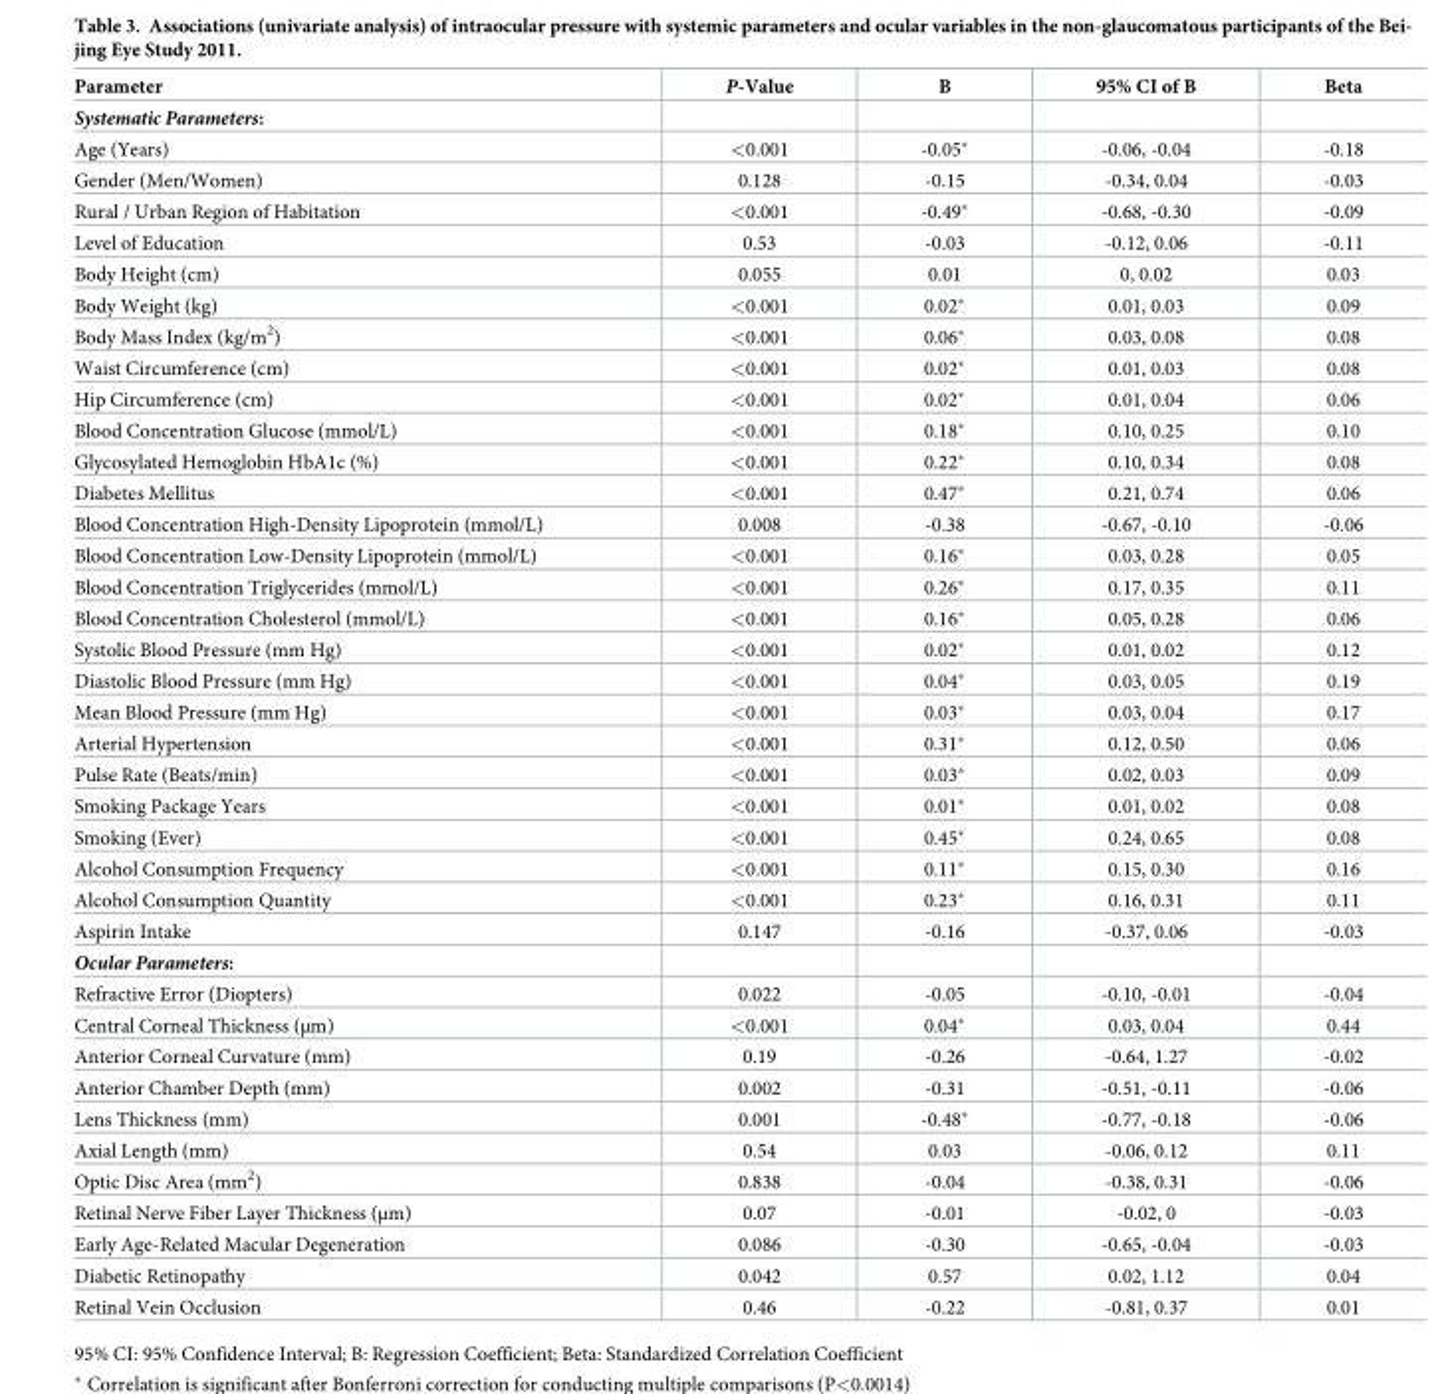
<table><thead><tr><td>Parameter</td><td>P-Value</td><td>B</td><td>95% CI of B</td><td>Beta</td></tr></thead><tbody><tr><td colspan="5">Systematic Parameters:</td></tr><tr><td>Age (Years)</td><td>&lt;0.001</td><td>-0.05*</td><td>-0.06, -0.04</td><td>-0.18</td></tr><tr><td>Gender (Men/Women)</td><td>0.128</td><td>-0.15</td><td>-0.34, 0.04</td><td>-0.03</td></tr><tr><td>Rural / Urban Region of Habitation</td><td>&lt;0.001</td><td>-0.49*</td><td>-0.68, -0.30</td><td>-0.09</td></tr><tr><td>Level of Education</td><td>0.53</td><td>-0.03</td><td>-0.12, 0.06</td><td>-0.11</td></tr><tr><td>Body Height (cm)</td><td>0.055</td><td>0.01</td><td>0, 0.02</td><td>0.03</td></tr><tr><td>Body Weight (kg)</td><td>&lt;0.001</td><td>0.02*</td><td>0.01, 0.03</td><td>0.09</td></tr><tr><td>Body Mass Index (kg/m<sup>2</sup>)</td><td>&lt;0.001</td><td>0.06*</td><td>0.03, 0.08</td><td>0.08</td></tr><tr><td>Waist Circumference (cm)</td><td>&lt;0.001</td><td>0.02*</td><td>0.01, 0.03</td><td>0.08</td></tr><tr><td>Hip Circumference (cm)</td><td>&lt;0.001</td><td>0.02*</td><td>0.01, 0.04</td><td>0.06</td></tr><tr><td>Blood Concentration Glucose (mmol/L)</td><td>&lt;0.001</td><td>0.18*</td><td>0.10, 0.25</td><td>0.10</td></tr><tr><td>Glycosylated Hemoglobin HbA1c (%)</td><td>&lt;0.001</td><td>0.22*</td><td>0.10, 0.34</td><td>0.08</td></tr><tr><td>Diabetes Mellitus</td><td>&lt;0.001</td><td>0.47*</td><td>0.21, 0.74</td><td>0.06</td></tr><tr><td>Blood Concentration High-Density Lipoprotein (mmol/L)</td><td>0.008</td><td>-0.38</td><td>-0.67, -0.10</td><td>-0.06</td></tr><tr><td>Blood Concentration Low-Density Lipoprotein (mmol/L)</td><td>&lt;0.001</td><td>0.16*</td><td>0.03, 0.28</td><td>0.05</td></tr><tr><td>Blood Concentration Triglycerides (mmol/L)</td><td>&lt;0.001</td><td>0.26*</td><td>0.17, 0.35</td><td>0.11</td></tr><tr><td>Blood Concentration Cholesterol (mmol/L)</td><td>&lt;0.001</td><td>0.16*</td><td>0.05, 0.28</td><td>0.06</td></tr><tr><td>Systolic Blood Pressure (mm Hg)</td><td>&lt;0.001</td><td>0.02*</td><td>0.01, 0.02</td><td>0.12</td></tr><tr><td>Diastolic Blood Pressure (mm Hg)</td><td>&lt;0.001</td><td>0.04*</td><td>0.03, 0.05</td><td>0.19</td></tr><tr><td>Mean Blood Pressure (mm Hg)</td><td>&lt;0.001</td><td>0.03*</td><td>0.03, 0.04</td><td>0.17</td></tr><tr><td>Arterial Hypertension</td><td>&lt;0.001</td><td>0.31*</td><td>0.12, 0.50</td><td>0.06</td></tr><tr><td>Pulse Rate (Beats/min)</td><td>&lt;0.001</td><td>0.03*</td><td>0.02, 0.03</td><td>0.09</td></tr><tr><td>Smoking Package Years</td><td>&lt;0.001</td><td>0.01*</td><td>0.01, 0.02</td><td>0.08</td></tr><tr><td>Smoking (Ever)</td><td>&lt;0.001</td><td>0.45*</td><td>0.24, 0.65</td><td>0.08</td></tr><tr><td>Alcohol Consumption Frequency</td><td>&lt;0.001</td><td>0.11*</td><td>0.15, 0.30</td><td>0.16</td></tr><tr><td>Alcohol Consumption Quantity</td><td>&lt;0.001</td><td>0.23*</td><td>0.16, 0.31</td><td>0.11</td></tr><tr><td>Aspirin Intake</td><td>0.147</td><td>-0.16</td><td>-0.37, 0.06</td><td>-0.03</td></tr><tr><td colspan="5">Ocular Parameters:</td></tr><tr><td>Refractive Error (Diopters)</td><td>0.022</td><td>-0.05</td><td>-0.10, -0.01</td><td>-0.04</td></tr><tr><td>Central Corneal Thickness (μm)</td><td>&lt;0.001</td><td>0.04*</td><td>0.03, 0.04</td><td>0.44</td></tr><tr><td>Anterior Corneal Curvature (mm)</td><td>0.19</td><td>-0.26</td><td>-0.64, 1.27</td><td>-0.02</td></tr><tr><td>Anterior Chamber Depth (mm)</td><td>0.002</td><td>-0.31</td><td>-0.51, -0.11</td><td>-0.06</td></tr><tr><td>Lens Thickness (mm)</td><td>0.001</td><td>-0.48*</td><td>-0.77, -0.18</td><td>-0.06</td></tr><tr><td>Axial Length (mm)</td><td>0.54</td><td>0.03</td><td>-0.06, 0.12</td><td>0.11</td></tr><tr><td>Optic Disc Area (mm<sup>2</sup>)</td><td>0.838</td><td>-0.04</td><td>-0.38, 0.31</td><td>-0.06</td></tr><tr><td>Retinal Nerve Fiber Layer Thickness (μm)</td><td>0.07</td><td>-0.01</td><td>-0.02, 0</td><td>-0.03</td></tr><tr><td>Early Age-Related Macular Degeneration</td><td>0.086</td><td>-0.30</td><td>-0.65, -0.04</td><td>-0.03</td></tr><tr><td>Diabetic Retinopathy</td><td>0.042</td><td>0.57</td><td>0.02, 1.12</td><td>0.04</td></tr><tr><td>Retinal Vein Occlusion</td><td>0.46</td><td>-0.22</td><td>-0.81, 0.37</td><td>0.01</td></tr></tbody></table>